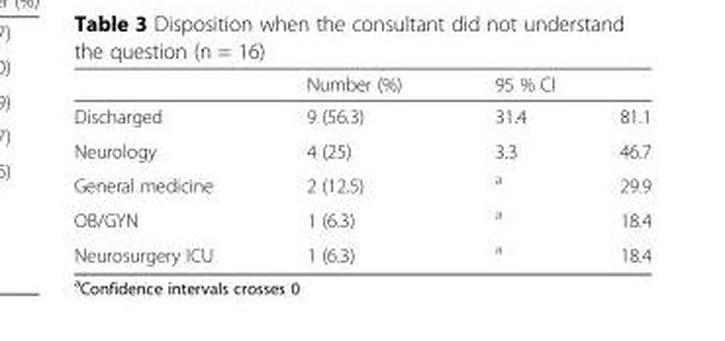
<table><thead><tr><td rowspan="2">Discharged</td><td rowspan="2">Number (%) 9 (56.3)</td><td colspan="2">95 % CI</td></tr><tr><td>31.4</td><td>81.1</td></tr></thead><tbody><tr><td>Neurology</td><td>4 (25)</td><td>3.3</td><td>46.7</td></tr><tr><td>General medicine</td><td>2 (12.5)</td><td><sup>a</sup></td><td>29.9</td></tr><tr><td>OB/GYN</td><td>1 (6.3)</td><td><sup>a</sup></td><td>18.4</td></tr><tr><td>Neurosurgery ICU</td><td>1 (6.3)</td><td><sup>a</sup></td><td>18.4</td></tr></tbody></table>